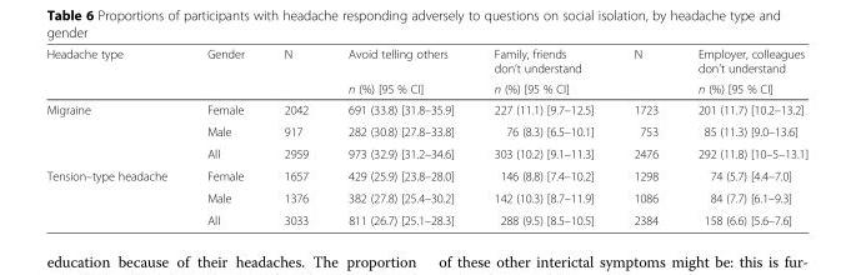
<table><thead><tr><td rowspan="2">Headache type</td><td rowspan="2">Gender</td><td rowspan="2">N</td><td rowspan="2">Avoid telling others n (%) [95 % CI]</td><td rowspan="2">Family, friends don’t understand n (%) [95 % CI]</td><td rowspan="2">N</td><td rowspan="2">Employer, colleagues don’t understand n (%) [95 % CI]</td></tr><tr></tr></thead><tbody><tr><td rowspan="3">Migraine</td><td>Female</td><td>2042</td><td>691 (33.8) [31.8–35.9]</td><td>227 (11.1) [9.7–12.5]</td><td>1723</td><td>201 (11.7) [10.2–13.2]</td></tr><tr><td>Male</td><td>917</td><td>282 (30.8) [27.8–33.8]</td><td>76 (8.3) [6.5–10.1]</td><td>753</td><td>85 (11.3) [9.0–13.6]</td></tr><tr><td>All</td><td>2959</td><td>973 (32.9) [31.2–34.6]</td><td>303 (10.2) [9.1–11.3]</td><td>2476</td><td>292 (11.8) [10–5–13.1]</td></tr><tr><td rowspan="3">Tension–type headache</td><td>Female</td><td>1657</td><td>429 (25.9) [23.8–28.0]</td><td>146 (8.8) [7.4–10.2]</td><td>1298</td><td>74 (5.7) [4.4–7.0]</td></tr><tr><td>Male</td><td>1376</td><td>382 (27.8) [25.4–30.2]</td><td>142 (10.3) [8.7–11.9]</td><td>1086</td><td>84 (7.7) [6.1–9.3]</td></tr><tr><td>All</td><td>3033</td><td>811 (26.7) [25.1–28.3]</td><td>288 (9.5) [8.5–10.5]</td><td>2384</td><td>158 (6.6) [5.6–7.6]</td></tr></tbody></table>